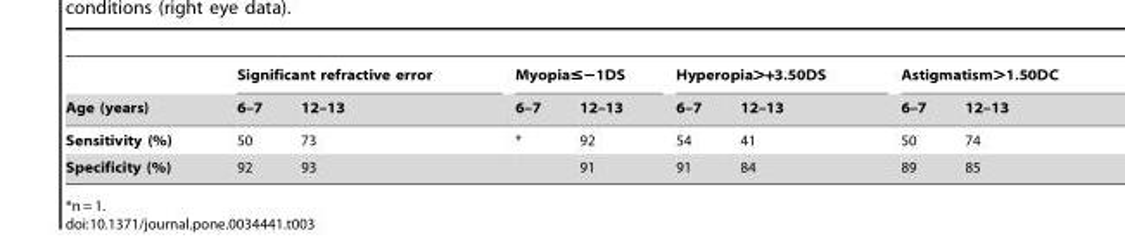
<table><thead><tr><td rowspan="2">Age (years)</td><td colspan="2">Significant refractive error</td><td colspan="2">Myopia≤−1DS</td><td colspan="2">Hyperopia&gt;+3.50DS</td><td colspan="2">Astigmatism&gt;1.50DC</td></tr><tr><td>6–7</td><td>12–13</td><td>6–7</td><td>12–13</td><td>6–7</td><td>12–13</td><td>6–7</td><td>12–13</td></tr></thead><tbody><tr><td>Sensitivity (%)</td><td>50</td><td>73</td><td>*</td><td>92</td><td>54</td><td>41</td><td>50</td><td>74</td></tr><tr><td>Specificity (%)</td><td>92</td><td>93</td><td></td><td>91</td><td>91</td><td>84</td><td>89</td><td>85</td></tr></tbody></table>